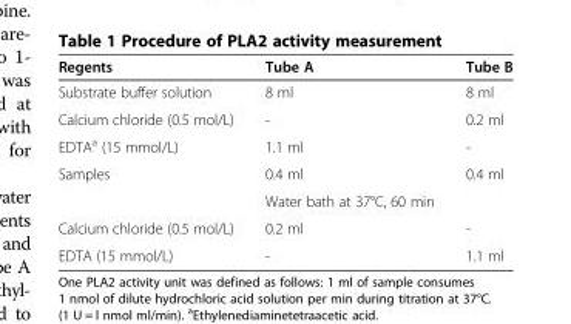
<table><thead><tr><td>Regents</td><td>Tube A</td><td>Tube B</td></tr></thead><tbody><tr><td>Substrate buffer solution</td><td>8 ml</td><td>8 ml</td></tr><tr><td>Calcium chloride (0.5 mol/L)</td><td>-</td><td>0.2 ml</td></tr><tr><td>EDTA<sup>a</sup> (15 mmol/L)</td><td>1.1 ml</td><td>-</td></tr><tr><td rowspan="2">Samples</td><td>0.4 ml</td><td>0.4 ml</td></tr><tr><td>Water bath at 37°C, 60 min</td><td></td></tr><tr><td>Calcium chloride (0.5 mol/L)</td><td>0.2 ml</td><td>-</td></tr><tr><td>EDTA (15 mmol/L)</td><td>-</td><td>1.1 ml</td></tr></tbody></table>